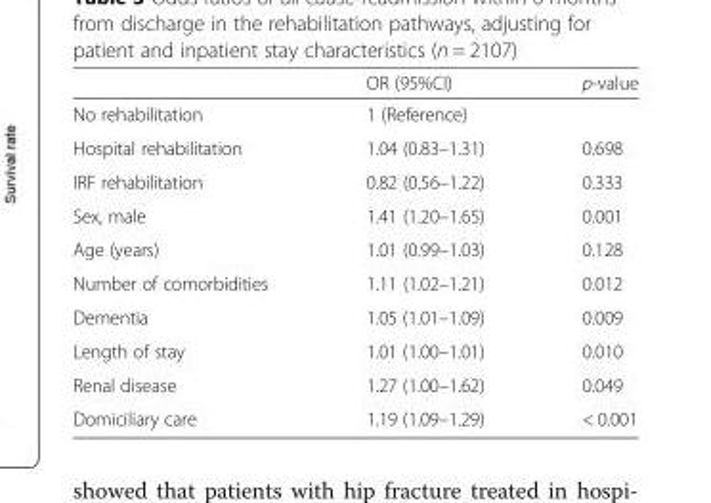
<table><thead><tr><td></td><td>OR (95%CI)</td><td>p-value</td></tr></thead><tbody><tr><td>No rehabilitation</td><td>1 (Reference)</td><td></td></tr><tr><td>Hospital rehabilitation</td><td>1.04 (0.83–1.31)</td><td>0.698</td></tr><tr><td>IRF rehabilitation</td><td>0.82 (0.56–1.22)</td><td>0.333</td></tr><tr><td>Sex, male</td><td>1.41 (1.20–1.65)</td><td>0.001</td></tr><tr><td>Age (years)</td><td>1.01 (0.99–1.03)</td><td>0.128</td></tr><tr><td>Number of comorbidities</td><td>1.11 (1.02–1.21)</td><td>0.012</td></tr><tr><td>Dementia</td><td>1.05 (1.01–1.09)</td><td>0.009</td></tr><tr><td>Length of stay</td><td>1.01 (1.00–1.01)</td><td>0.010</td></tr><tr><td>Renal disease</td><td>1.27 (1.00–1.62)</td><td>0.049</td></tr><tr><td>Domiciliary care</td><td>1.19 (1.09–1.29)</td><td>&lt; 0.001</td></tr></tbody></table>